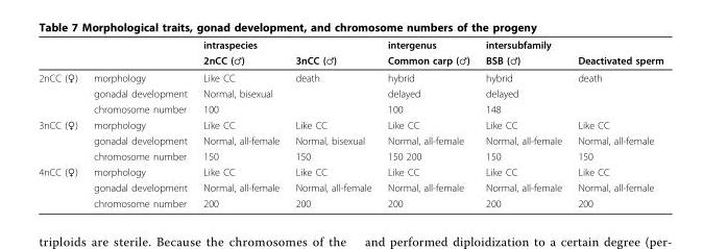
<table><thead><tr><td rowspan="2"></td><td rowspan="2"></td><td colspan="2">intraspecies</td><td rowspan="2">intergenus Common carp (♂)</td><td colspan="2">intersubfamily</td></tr><tr><td>2nCC (♂)</td><td>3nCC (♂)</td><td>BSB (♂)</td><td>Deactivated sperm</td></tr></thead><tbody><tr><td rowspan="3">2nCC (♀)</td><td>morphology</td><td>Like CC</td><td>death</td><td>hybrid</td><td>hybrid</td><td>death</td></tr><tr><td>gonadal development</td><td>Normal, bisexual</td><td></td><td>delayed</td><td>delayed</td><td></td></tr><tr><td>chromosome number</td><td>100</td><td></td><td>100</td><td>148</td><td></td></tr><tr><td rowspan="3">3nCC (♀)</td><td>morphology</td><td>Like CC</td><td>Like CC</td><td>Like CC</td><td>Like CC</td><td>Like CC</td></tr><tr><td>gonadal development</td><td>Normal, all-female</td><td>Normal, bisexual</td><td>Normal, all-female</td><td>Normal, all-female</td><td>Normal, all-female</td></tr><tr><td>chromosome number</td><td>150</td><td>150</td><td>150 200</td><td>150</td><td>150</td></tr><tr><td rowspan="3">4nCC (♀)</td><td>morphology</td><td>Like CC</td><td>Like CC</td><td>Like CC</td><td>Like CC</td><td>Like CC</td></tr><tr><td>gonadal development</td><td>Normal, all-female</td><td>Normal, all-female</td><td>Normal, all-female</td><td>Normal, all-female</td><td>Normal, all-female</td></tr><tr><td>chromosome number</td><td>200</td><td>200</td><td>200</td><td>200</td><td>200</td></tr></tbody></table>